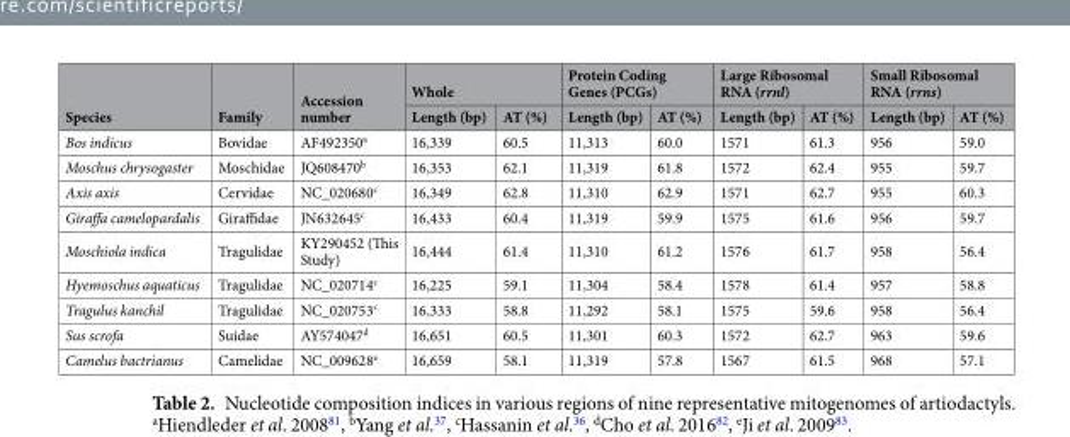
<table><thead><tr><td rowspan="2">Species</td><td rowspan="2">Family</td><td rowspan="2">Accession number</td><td colspan="2">Whole</td><td colspan="2">Protein Coding Genes (PCGs)</td><td colspan="2">Large Ribosomal RNA (rrnl)</td><td colspan="2">Small Ribosomal RNA (rrns)</td></tr><tr><td>Length (bp)</td><td>AT (%)</td><td>Length (bp)</td><td>AT (%)</td><td>Length (bp)</td><td>AT (%)</td><td>Length (bp)</td><td>AT (%)</td></tr></thead><tbody><tr><td>Bos indicus</td><td>Bovidae</td><td>AF492350<sup>a</sup></td><td>16,339</td><td>60.5</td><td>11,313</td><td>60.0</td><td>1571</td><td>61.3</td><td>956</td><td>59.0</td></tr><tr><td>Moschus chrysogaster</td><td>Moschidae</td><td>JQ608470<sup>b</sup></td><td>16,353</td><td>62.1</td><td>11,319</td><td>61.8</td><td>1572</td><td>62.4</td><td>955</td><td>59.7</td></tr><tr><td>Axis axis</td><td>Cervidae</td><td>NC_020680<sup>c</sup></td><td>16,349</td><td>62.8</td><td>11,310</td><td>62.9</td><td>1571</td><td>62.7</td><td>955</td><td>60.3</td></tr><tr><td>Giraffa camelopardalis</td><td>Giraffidae</td><td>JN632645<sup>c</sup></td><td>16,433</td><td>60.4</td><td>11,319</td><td>59.9</td><td>1575</td><td>61.6</td><td>956</td><td>59.7</td></tr><tr><td>Moschiola indica</td><td>Tragulidae</td><td>KY290452 (This Study)</td><td>16,444</td><td>61.4</td><td>11,310</td><td>61.2</td><td>1576</td><td>61.7</td><td>958</td><td>56.4</td></tr><tr><td>Hyemoschus aquaticus</td><td>Tragulidae</td><td>NC_020714<sup>c</sup></td><td>16,225</td><td>59.1</td><td>11,304</td><td>58.4</td><td>1578</td><td>61.4</td><td>957</td><td>58.8</td></tr><tr><td>Tragulus kanchil</td><td>Tragulidae</td><td>NC_020753<sup>c</sup></td><td>16,333</td><td>58.8</td><td>11,292</td><td>58.1</td><td>1575</td><td>59.6</td><td>958</td><td>56.4</td></tr><tr><td>Sus scrofa</td><td>Suidae</td><td>AY574047<sup>d</sup></td><td>16,651</td><td>60.5</td><td>11,301</td><td>60.3</td><td>1572</td><td>62.7</td><td>963</td><td>59.6</td></tr><tr><td>Camelus bactrianus</td><td>Camelidae</td><td>NC_009628<sup>e</sup></td><td>16,659</td><td>58.1</td><td>11,319</td><td>57.8</td><td>1567</td><td>61.5</td><td>968</td><td>57.1</td></tr></tbody></table>